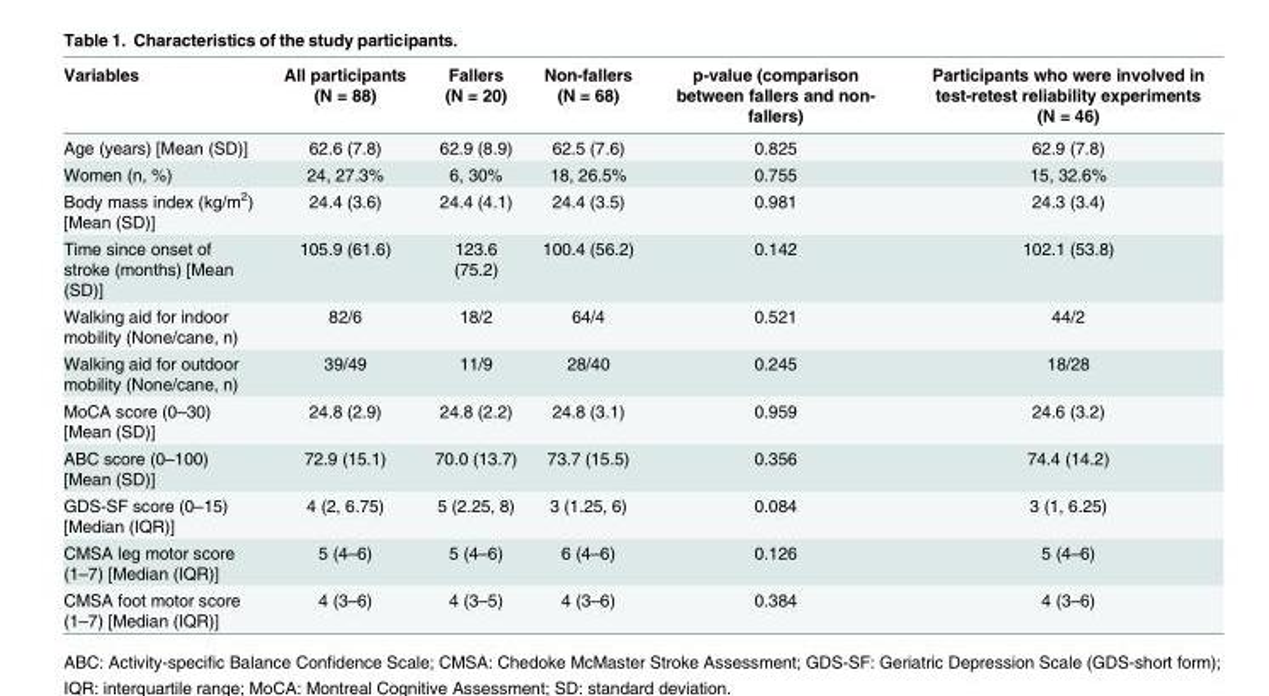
<table><thead><tr><td>Variables</td><td>All participants (N = 88)</td><td>Fallers (N = 20)</td><td>Non-fallers (N = 68)</td><td>p-value (comparison between fallers and non- fallers)</td><td>Participants who were involved in test-retest reliability experiments (N = 46)</td></tr></thead><tbody><tr><td>Age (years) [Mean (SD)]</td><td>62.6 (7.8)</td><td>62.9 (8.9)</td><td>62.5 (7.6)</td><td>0.825</td><td>62.9 (7.8)</td></tr><tr><td>Women (n, %)</td><td>24, 27.3%</td><td>6, 30%</td><td>18, 26.5%</td><td>0.755</td><td>15, 32.6%</td></tr><tr><td>Body mass index (kg/m<sup>2</sup>) [Mean (SD)]</td><td>24.4 (3.6)</td><td>24.4 (4.1)</td><td>24.4 (3.5)</td><td>0.981</td><td>24.3 (3.4)</td></tr><tr><td>Time since onset of stroke (months) [Mean (SD)]</td><td>105.9 (61.6)</td><td>123.6 (75.2)</td><td>100.4 (56.2)</td><td>0.142</td><td>102.1 (53.8)</td></tr><tr><td>Walking aid for indoor mobility (None/cane, n)</td><td>82/6</td><td>18/2</td><td>64/4</td><td>0.521</td><td>44/2</td></tr><tr><td>Walking aid for outdoor mobility (None/cane, n)</td><td>39/49</td><td>11/9</td><td>28/40</td><td>0.245</td><td>18/28</td></tr><tr><td>MoCA score (0–30) [Mean (SD)]</td><td>24.8 (2.9)</td><td>24.8 (2.2)</td><td>24.8 (3.1)</td><td>0.959</td><td>24.6 (3.2)</td></tr><tr><td>ABC score (0–100) [Mean (SD)]</td><td>72.9 (15.1)</td><td>70.0 (13.7)</td><td>73.7 (15.5)</td><td>0.356</td><td>74.4 (14.2)</td></tr><tr><td>GDS-SF score (0–15) [Median (IQR)]</td><td>4 (2, 6.75)</td><td>5 (2.25, 8)</td><td>3 (1.25, 6)</td><td>0.084</td><td>3 (1, 6.25)</td></tr><tr><td>CMSA leg motor score (1–7) [Median (IQR)]</td><td>5 (4–6)</td><td>5 (4–6)</td><td>6 (4–6)</td><td>0.126</td><td>5 (4–6)</td></tr><tr><td>CMSA foot motor score (1–7) [Median (IQR)]</td><td>4 (3–6)</td><td>4 (3–5)</td><td>4 (3–6)</td><td>0.384</td><td>4 (3–6)</td></tr></tbody></table>